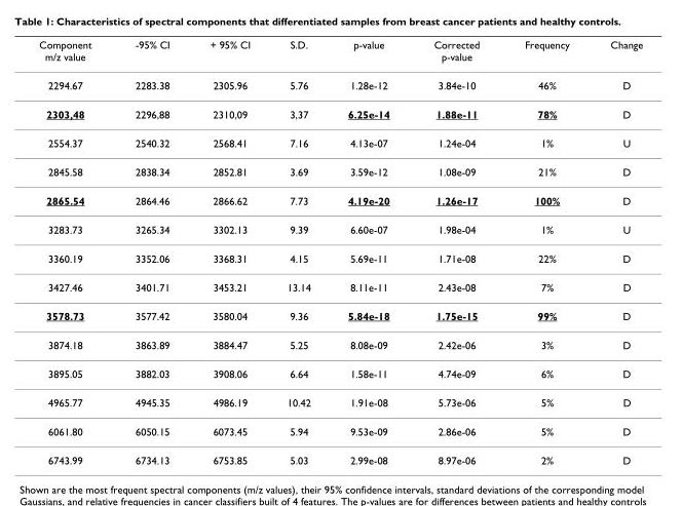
<table><thead><tr><td>Component m/z value</td><td>-95% CI</td><td>+ 95% CI</td><td>S.D.</td><td>p-value</td><td>Corrected p-value</td><td>Frequency</td><td>Change</td></tr></thead><tbody><tr><td>2294.67</td><td>2283.38</td><td>2305.96</td><td>5.76</td><td>1.28e-12</td><td>3.84e-10</td><td>46%</td><td>D</td></tr><tr><td>2303,48</td><td>2296,88</td><td>2310,09</td><td>3,37</td><td>6.25e-14</td><td>1.88e-11</td><td>78%</td><td>D</td></tr><tr><td>2554.37</td><td>2540.32</td><td>2568.41</td><td>7.16</td><td>4.13e-07</td><td>1.24e-04</td><td>1%</td><td>U</td></tr><tr><td>2845.58</td><td>2838.34</td><td>2852.81</td><td>3.69</td><td>3.59e-12</td><td>1.08e-09</td><td>21%</td><td>D</td></tr><tr><td>2865.54</td><td>2864.46</td><td>2866.62</td><td>7.73</td><td>4.19e-20</td><td>1.26e-17</td><td>100%</td><td>D</td></tr><tr><td>3283.73</td><td>3265.34</td><td>3302.13</td><td>9.39</td><td>6.60e-07</td><td>1.98e-04</td><td>1%</td><td>U</td></tr><tr><td>3360.19</td><td>3352.06</td><td>3368.31</td><td>4.15</td><td>5.69e-11</td><td>1.71e-08</td><td>22%</td><td>D</td></tr><tr><td>3427.46</td><td>3401.71</td><td>3453.21</td><td>13.14</td><td>8.11e-11</td><td>2.43e-08</td><td>7%</td><td>D</td></tr><tr><td>3578.73</td><td>3577.42</td><td>3580.04</td><td>9.36</td><td>5.84e-18</td><td>1.75e-15</td><td>99%</td><td>D</td></tr><tr><td>3874.18</td><td>3863.89</td><td>3884.47</td><td>5.25</td><td>8.08e-09</td><td>2.42e-06</td><td>3%</td><td>D</td></tr><tr><td>3895.05</td><td>3882.03</td><td>3908.06</td><td>6.64</td><td>1.58e-11</td><td>4.74e-09</td><td>6%</td><td>D</td></tr><tr><td>4965.77</td><td>4945.35</td><td>4986.19</td><td>10.42</td><td>1.91e-08</td><td>5.73e-06</td><td>5%</td><td>D</td></tr><tr><td>6061.80</td><td>6050.15</td><td>6073.45</td><td>5.94</td><td>9.53e-09</td><td>2.86e-06</td><td>5%</td><td>D</td></tr><tr><td>6743.99</td><td>6734.13</td><td>6753.85</td><td>5.03</td><td>2.99e-08</td><td>8.97e-06</td><td>2%</td><td>D</td></tr></tbody></table>